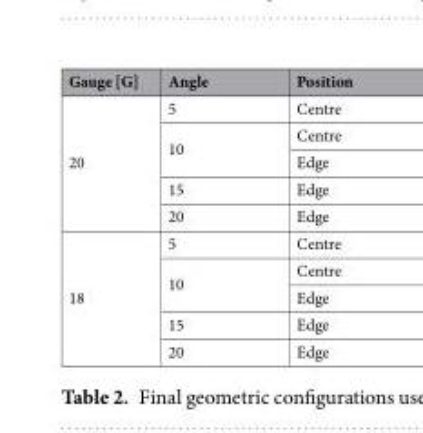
<table><thead><tr><td>Gauge [G]</td><td>Angle</td><td>Position</td></tr></thead><tbody><tr><td rowspan="5">20</td><td>5</td><td>Centre</td></tr><tr><td rowspan="2">10</td><td>Centre</td></tr><tr><td>Edge</td></tr><tr><td>15</td><td>Edge</td></tr><tr><td>20</td><td>Edge</td></tr><tr><td rowspan="5">18</td><td>5</td><td>Centre</td></tr><tr><td rowspan="2">10</td><td>Centre</td></tr><tr><td>Edge</td></tr><tr><td>15</td><td>Edge</td></tr><tr><td>20</td><td>Edge</td></tr></tbody></table>